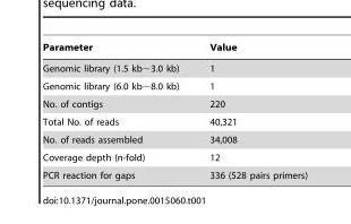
<table><thead><tr><td>Parameter</td><td>Value</td></tr></thead><tbody><tr><td>Genomic library (1.5 kb∼3.0 kb)</td><td>1</td></tr><tr><td>Genomic library (6.0 kb∼8.0 kb)</td><td>1</td></tr><tr><td>No. of contigs</td><td>220</td></tr><tr><td>Total No. of reads</td><td>40,321</td></tr><tr><td>No. of reads assembled</td><td>34,008</td></tr><tr><td>Coverage depth (n-fold)</td><td>12</td></tr><tr><td>PCR reaction for gaps</td><td>336 (528 pairs primers)</td></tr></tbody></table>